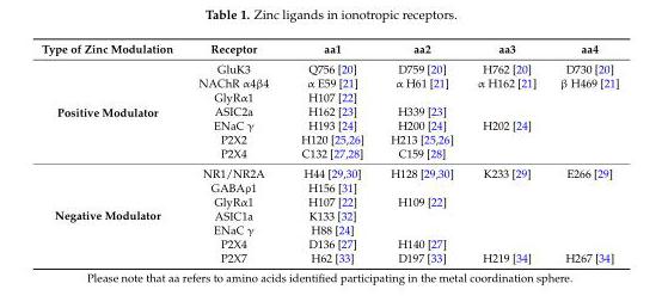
<table><thead><tr><td>Type of Zinc Modulation</td><td>Receptor</td><td>aa1</td><td>aa2</td><td>aa3</td><td>aa4</td></tr></thead><tbody><tr><td rowspan="7">Positive Modulator</td><td>GluK3</td><td>Q756 [20]</td><td>D759 [20]</td><td>H762 [20]</td><td>D730 [20]</td></tr><tr><td>NAChR α4β4</td><td>α E59 [21]</td><td>α H61 [21]</td><td>α H162 [21]</td><td>β H469 [21]</td></tr><tr><td>GlyRα1</td><td>H107 [22]</td><td></td><td></td><td></td></tr><tr><td>ASIC2a</td><td>H162 [23]</td><td>H339 [23]</td><td></td><td></td></tr><tr><td>ENaC γ</td><td>H193 [24]</td><td>H200 [24]</td><td>H202 [24]</td><td></td></tr><tr><td>P2X2</td><td>H120 [25,26]</td><td>H213 [25,26]</td><td></td><td></td></tr><tr><td>P2X4</td><td>C132 [27,28]</td><td>C159 [28]</td><td></td><td></td></tr><tr><td rowspan="7">Negative Modulator</td><td>NR1/NR2A</td><td>H44 [29,30]</td><td>H128 [29,30]</td><td>K233 [29]</td><td>E266 [29]</td></tr><tr><td>GABAρ1</td><td>H156 [31]</td><td></td><td></td><td></td></tr><tr><td>GlyRα1</td><td>H107 [22]</td><td>H109 [22]</td><td></td><td></td></tr><tr><td>ASIC1a</td><td>K133 [32]</td><td></td><td></td><td></td></tr><tr><td>ENaC γ</td><td>H88 [24]</td><td></td><td></td><td></td></tr><tr><td>P2X4</td><td>D136 [27]</td><td>H140 [27]</td><td></td><td></td></tr><tr><td>P2X7</td><td>H62 [33]</td><td>D197 [33]</td><td>H219 [34]</td><td>H267 [34]</td></tr></tbody></table>